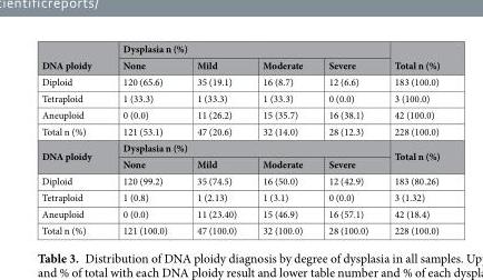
<table><thead><tr><td rowspan="2">DNA ploidy</td><td colspan="4">Dysplasia n (%)</td><td rowspan="2">Total n (%)</td></tr><tr><td>None</td><td>Mild</td><td>Moderate</td><td>Severe</td></tr></thead><tbody><tr><td>Diploid</td><td>120 (65.6)</td><td>35 (19.1)</td><td>16 (8.7)</td><td>12 (6.6)</td><td>183 (100.0)</td></tr><tr><td>Tetraploid</td><td>1 (33.3)</td><td>1 (33.3)</td><td>1 (33.3)</td><td>0 (0.0)</td><td>3 (100.0)</td></tr><tr><td>Aneuploid</td><td>0 (0.0)</td><td>11 (26.2)</td><td>15 (35.7)</td><td>16 (38.1)</td><td>42 (100.0)</td></tr><tr><td>Total n (%)</td><td>121 (53.1)</td><td>47 (20.6)</td><td>32 (14.0)</td><td>28 (12.3)</td><td>228 (100.0)</td></tr><tr><td rowspan="2">DNA ploidy</td><td colspan="4">Dysplasia n (%)</td><td rowspan="2">Total n (%)</td></tr><tr><td>None</td><td>Mild</td><td>Moderate</td><td>Severe</td></tr><tr><td>Diploid</td><td>120 (99.2)</td><td>35 (74.5)</td><td>16 (50.0)</td><td>12 (42.9)</td><td>183 (80.26)</td></tr><tr><td>Tetraploid</td><td>1 (0.8)</td><td>1 (2.13)</td><td>1 (3.1)</td><td>0 (0.0)</td><td>3 (1.32)</td></tr><tr><td>Aneuploid</td><td>0 (0.0)</td><td>11 (23.40)</td><td>15 (46.9)</td><td>16 (57.1)</td><td>42 (18.4)</td></tr><tr><td>Total n (%)</td><td>121 (100.0)</td><td>47 (100.0)</td><td>32 (100.0)</td><td>28 (100.0)</td><td>228 (100.0)</td></tr></tbody></table>